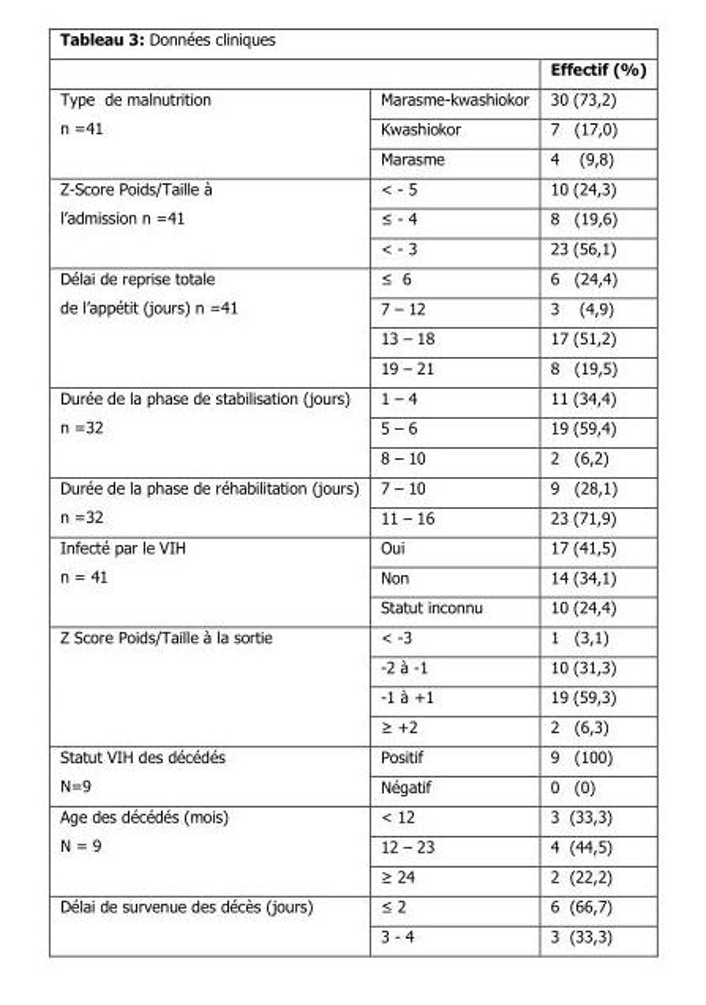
<table><thead><tr><td></td><td></td><td>Effectif (%)</td></tr></thead><tbody><tr><td rowspan="3">Type de malnutrition n =41</td><td>Marasme-kwashiokor</td><td>30 (73,2)</td></tr><tr><td>Kwashiokor</td><td>7 (17,0)</td></tr><tr><td>Marasme</td><td>4 (9,8)</td></tr><tr><td rowspan="3">Z-Score Poids/Taille à l’admission n =41</td><td>&lt; - 5</td><td>10 (24,3)</td></tr><tr><td>≤ - 4</td><td>8 (19,6)</td></tr><tr><td>&lt; - 3</td><td>23 (56,1)</td></tr><tr><td rowspan="4">Délai de reprise totale de l’appétit (jours) n =41</td><td>≤ 6</td><td>6 (24,4)</td></tr><tr><td>7 – 12</td><td>3 (4,9)</td></tr><tr><td>13 – 18</td><td>17 (51,2)</td></tr><tr><td>19 – 21</td><td>8 (19,5)</td></tr><tr><td rowspan="3">Durée de la phase de stabilisation (jours) n =32</td><td>1 – 4</td><td>11 (34,4)</td></tr><tr><td>5 – 6</td><td>19 (59,4)</td></tr><tr><td>8 – 10</td><td>2 (6,2)</td></tr><tr><td rowspan="2">Durée de la phase de réhabilitation (jours) n =32</td><td>7 – 10</td><td>9 (28,1)</td></tr><tr><td>11 – 16</td><td>23 (71,9)</td></tr><tr><td rowspan="3">Infecté par le VIH n = 41</td><td>Oui</td><td>17 (41,5)</td></tr><tr><td>Non</td><td>14 (34,1)</td></tr><tr><td>Statut inconnu</td><td>10 (24,4)</td></tr><tr><td rowspan="4">Z Score Poids/Taille à la sortie</td><td>&lt; -3</td><td>1 (3,1)</td></tr><tr><td>-2 à -1</td><td>10 (31,3)</td></tr><tr><td>-1 à +1</td><td>19 (59,3)</td></tr><tr><td>≥ +2</td><td>2 (6,3)</td></tr><tr><td rowspan="2">Statut VIH des décédés N=9</td><td>Positif</td><td>9 (100)</td></tr><tr><td>Négatif</td><td>0 (0)</td></tr><tr><td rowspan="3">Age des décédés (mois) N = 9</td><td>&lt; 12</td><td>3 (33,3)</td></tr><tr><td>12 – 23</td><td>4 (44,5)</td></tr><tr><td>≥ 24</td><td>2 (22,2)</td></tr><tr><td rowspan="2">Délai de survenue des décès (jours)</td><td>≤ 2</td><td>6 (66,7)</td></tr><tr><td>3 - 4</td><td>3 (33,3)</td></tr></tbody></table>